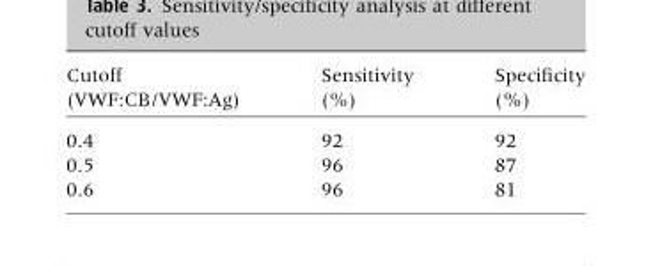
<table><thead><tr><td>Cutoff (VWF:CB/VWF:Ag)</td><td>Sensitivity (%)</td><td>Specificity (%)</td></tr></thead><tbody><tr><td>0.4</td><td>92</td><td>92</td></tr><tr><td>0.5</td><td>96</td><td>87</td></tr><tr><td>0.6</td><td>96</td><td>81</td></tr></tbody></table>